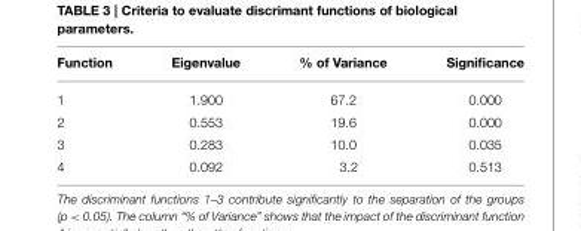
<table><thead><tr><td>Function</td><td>Eigenvalue</td><td>% of Variance</td><td>Significance</td></tr></thead><tbody><tr><td>1</td><td>1.900</td><td>67.2</td><td>0.000</td></tr><tr><td>2</td><td>0.553</td><td>19.6</td><td>0.000</td></tr><tr><td>3</td><td>0.283</td><td>10.0</td><td>0.035</td></tr><tr><td>4</td><td>0.092</td><td>3.2</td><td>0.513</td></tr></tbody></table>